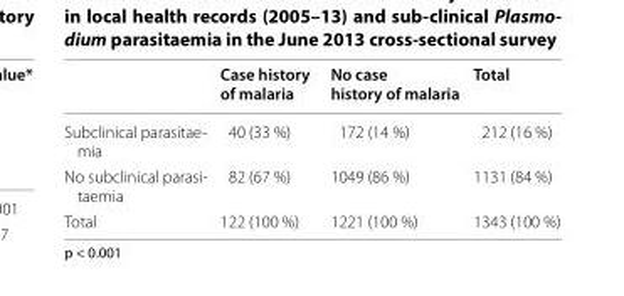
<table><thead><tr><td></td><td>Case history of malaria</td><td>No case history of malaria</td><td>Total</td></tr></thead><tbody><tr><td>Subclinical parasitae- mia</td><td>40 (33 %)</td><td>172 (14 %)</td><td>212 (16 %)</td></tr><tr><td>No subclinical parasi- taemia</td><td>82 (67 %)</td><td>1049 (86 %)</td><td>1131 (84 %)</td></tr><tr><td>Total</td><td>122 (100 %)</td><td>1221 (100 %)</td><td>1343 (100 %)</td></tr></tbody></table>